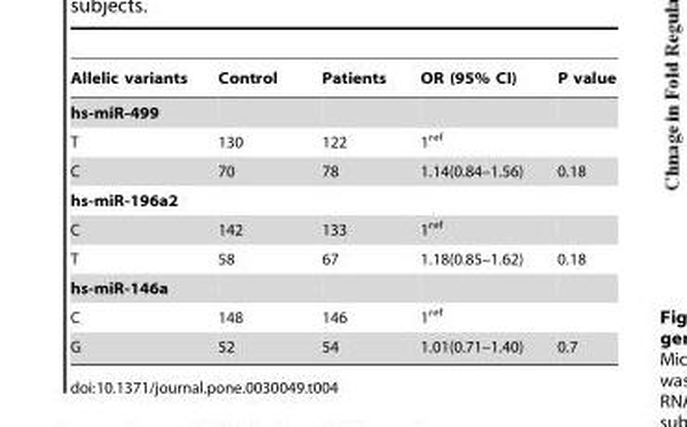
<table><thead><tr><td>Allelic variants</td><td>Control</td><td>Patients</td><td>OR (95% CI)</td><td>P value</td></tr></thead><tbody><tr><td colspan="5">hs-miR-499</td></tr><tr><td>T</td><td>130</td><td>122</td><td>1<sup>ref</sup></td><td></td></tr><tr><td>C</td><td>70</td><td>78</td><td>1.14(0.84–1.56)</td><td>0.18</td></tr><tr><td colspan="5">hs-miR-196a2</td></tr><tr><td>C</td><td>142</td><td>133</td><td>1<sup>ref</sup></td><td></td></tr><tr><td>T</td><td>58</td><td>67</td><td>1.18(0.85–1.62)</td><td>0.18</td></tr><tr><td colspan="5">hs-miR-146a</td></tr><tr><td>C</td><td>148</td><td>146</td><td>1<sup>ref</sup></td><td></td></tr><tr><td>G</td><td>52</td><td>54</td><td>1.01(0.71–1.40)</td><td>0.7</td></tr></tbody></table>